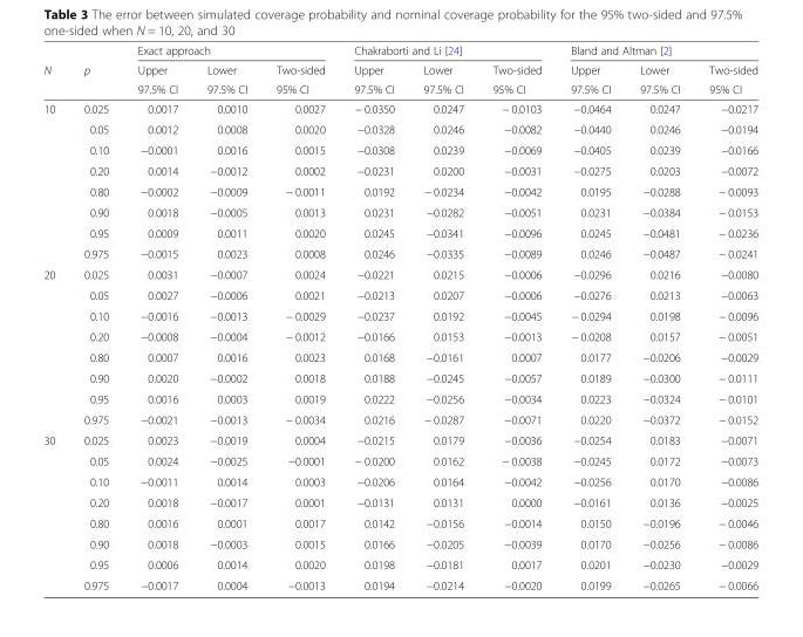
<table><thead><tr><td rowspan="3">N</td><td rowspan="3">p</td><td colspan="3">Exact approach</td><td colspan="3">Chakraborti and Li [24]</td><td colspan="3">Bland and Altman [2]</td></tr><tr><td rowspan="2">Upper 97.5% CI</td><td rowspan="2">Lower 97.5% CI</td><td rowspan="2">Two-sided 95% CI</td><td rowspan="2">Upper 97.5% CI</td><td rowspan="2">Lower 97.5% CI</td><td rowspan="2">Two-sided 95% CI</td><td rowspan="2">Upper 97.5% CI</td><td rowspan="2">Lower 97.5% CI</td><td rowspan="2">Two-sided 95% CI</td></tr><tr></tr></thead><tbody><tr><td rowspan="8">10</td><td>0.025</td><td>0.0017</td><td>0.0010</td><td>0.0027</td><td>− 0.0350</td><td>0.0247</td><td>− 0.0103</td><td>−0.0464</td><td>0.0247</td><td>−0.0217</td></tr><tr><td>0.05</td><td>0.0012</td><td>0.0008</td><td>0.0020</td><td>−0.0328</td><td>0.0246</td><td>−0.0082</td><td>−0.0440</td><td>0.0246</td><td>−0.0194</td></tr><tr><td>0.10</td><td>−0.0001</td><td>0.0016</td><td>0.0015</td><td>−0.0308</td><td>0.0239</td><td>−0.0069</td><td>−0.0405</td><td>0.0239</td><td>−0.0166</td></tr><tr><td>0.20</td><td>0.0014</td><td>−0.0012</td><td>0.0002</td><td>−0.0231</td><td>0.0200</td><td>−0.0031</td><td>−0.0275</td><td>0.0203</td><td>−0.0072</td></tr><tr><td>0.80</td><td>−0.0002</td><td>−0.0009</td><td>− 0.0011</td><td>0.0192</td><td>− 0.0234</td><td>−0.0042</td><td>0.0195</td><td>−0.0288</td><td>− 0.0093</td></tr><tr><td>0.90</td><td>0.0018</td><td>−0.0005</td><td>0.0013</td><td>0.0231</td><td>−0.0282</td><td>−0.0051</td><td>0.0231</td><td>−0.0384</td><td>− 0.0153</td></tr><tr><td>0.95</td><td>0.0009</td><td>0.0011</td><td>0.0020</td><td>0.0245</td><td>−0.0341</td><td>−0.0096</td><td>0.0245</td><td>−0.0481</td><td>− 0.0236</td></tr><tr><td>0.975</td><td>−0.0015</td><td>0.0023</td><td>0.0008</td><td>0.0246</td><td>−0.0335</td><td>−0.0089</td><td>0.0246</td><td>−0.0487</td><td>− 0.0241</td></tr><tr><td rowspan="8">20</td><td>0.025</td><td>0.0031</td><td>−0.0007</td><td>0.0024</td><td>−0.0221</td><td>0.0215</td><td>−0.0006</td><td>−0.0296</td><td>0.0216</td><td>−0.0080</td></tr><tr><td>0.05</td><td>0.0027</td><td>−0.0006</td><td>0.0021</td><td>−0.0213</td><td>0.0207</td><td>−0.0006</td><td>−0.0276</td><td>0.0213</td><td>−0.0063</td></tr><tr><td>0.10</td><td>−0.0016</td><td>−0.0013</td><td>− 0.0029</td><td>−0.0237</td><td>0.0192</td><td>−0.0045</td><td>− 0.0294</td><td>0.0198</td><td>− 0.0096</td></tr><tr><td>0.20</td><td>−0.0008</td><td>−0.0004</td><td>− 0.0012</td><td>−0.0166</td><td>0.0153</td><td>−0.0013</td><td>− 0.0208</td><td>0.0157</td><td>− 0.0051</td></tr><tr><td>0.80</td><td>0.0007</td><td>0.0016</td><td>0.0023</td><td>0.0168</td><td>−0.0161</td><td>0.0007</td><td>0.0177</td><td>−0.0206</td><td>−0.0029</td></tr><tr><td>0.90</td><td>0.0020</td><td>−0.0002</td><td>0.0018</td><td>0.0188</td><td>−0.0245</td><td>−0.0057</td><td>0.0189</td><td>−0.0300</td><td>− 0.0111</td></tr><tr><td>0.95</td><td>0.0016</td><td>0.0003</td><td>0.0019</td><td>0.0222</td><td>−0.0256</td><td>−0.0034</td><td>0.0223</td><td>−0.0324</td><td>− 0.0101</td></tr><tr><td>0.975</td><td>−0.0021</td><td>−0.0013</td><td>− 0.0034</td><td>0.0216</td><td>− 0.0287</td><td>−0.0071</td><td>0.0220</td><td>−0.0372</td><td>− 0.0152</td></tr><tr><td rowspan="8">30</td><td>0.025</td><td>0.0023</td><td>−0.0019</td><td>0.0004</td><td>−0.0215</td><td>0.0179</td><td>−0.0036</td><td>−0.0254</td><td>0.0183</td><td>−0.0071</td></tr><tr><td>0.05</td><td>0.0024</td><td>−0.0025</td><td>−0.0001</td><td>− 0.0200</td><td>0.0162</td><td>− 0.0038</td><td>−0.0245</td><td>0.0172</td><td>−0.0073</td></tr><tr><td>0.10</td><td>−0.0011</td><td>0.0014</td><td>0.0003</td><td>−0.0206</td><td>0.0164</td><td>−0.0042</td><td>−0.0256</td><td>0.0170</td><td>−0.0086</td></tr><tr><td>0.20</td><td>0.0018</td><td>−0.0017</td><td>0.0001</td><td>−0.0131</td><td>0.0131</td><td>0.0000</td><td>−0.0161</td><td>0.0136</td><td>−0.0025</td></tr><tr><td>0.80</td><td>0.0016</td><td>0.0001</td><td>0.0017</td><td>0.0142</td><td>−0.0156</td><td>−0.0014</td><td>0.0150</td><td>−0.0196</td><td>− 0.0046</td></tr><tr><td>0.90</td><td>0.0018</td><td>−0.0003</td><td>0.0015</td><td>0.0166</td><td>−0.0205</td><td>−0.0039</td><td>0.0170</td><td>−0.0256</td><td>− 0.0086</td></tr><tr><td>0.95</td><td>0.0006</td><td>0.0014</td><td>0.0020</td><td>0.0198</td><td>−0.0181</td><td>0.0017</td><td>0.0201</td><td>−0.0230</td><td>−0.0029</td></tr><tr><td>0.975</td><td>−0.0017</td><td>0.0004</td><td>−0.0013</td><td>0.0194</td><td>−0.0214</td><td>−0.0020</td><td>0.0199</td><td>−0.0265</td><td>− 0.0066</td></tr></tbody></table>